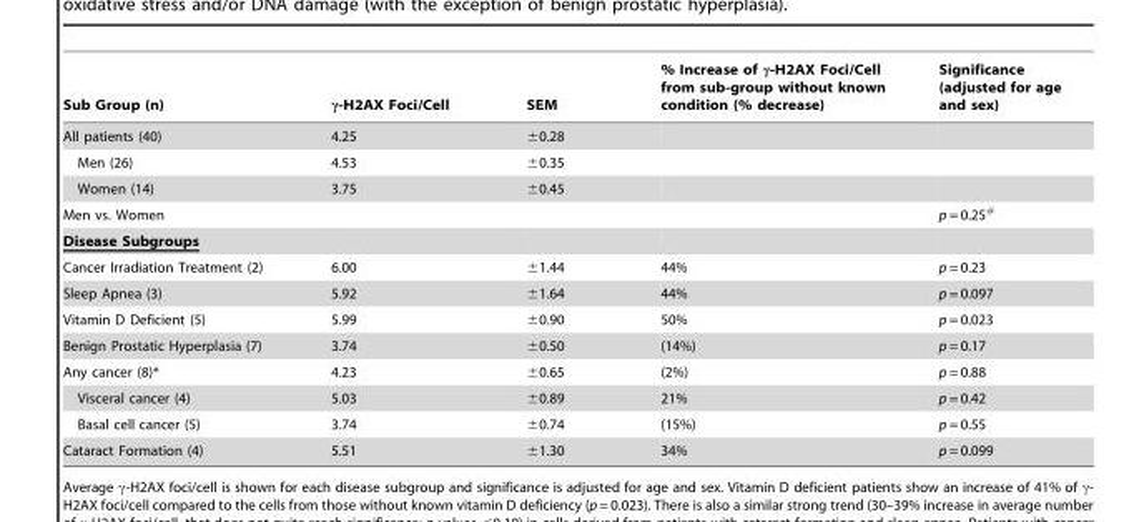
<table><thead><tr><td>Sub Group (n)</td><td>γ-H2AX Foci/Cell</td><td>SEM</td><td>% Increase of γ-H2AX Foci/Cell from sub-group without known condition (% decrease)</td><td>Significance (adjusted for age and sex)</td></tr></thead><tbody><tr><td>All patients (40)</td><td>4.25</td><td>±0.28</td><td></td><td></td></tr><tr><td>Men (26)</td><td>4.53</td><td>±0.35</td><td></td><td></td></tr><tr><td>Women (14)</td><td>3.75</td><td>±0.45</td><td></td><td></td></tr><tr><td>Men vs. Women</td><td></td><td></td><td></td><td>p = 0.25#</td></tr><tr><td colspan="5">Disease Subgroups</td></tr><tr><td>Cancer Irradiation Treatment (2)</td><td>6.00</td><td>±1.44</td><td>44%</td><td>p = 0.23</td></tr><tr><td>Sleep Apnea (3)</td><td>5.92</td><td>±1.64</td><td>44%</td><td>p = 0.097</td></tr><tr><td>Vitamin D Deficient (5)</td><td>5.99</td><td>±0.90</td><td>50%</td><td>p = 0.023</td></tr><tr><td>Benign Prostatic Hyperplasia (7)</td><td>3.74</td><td>±0.50</td><td>(14%)</td><td>p = 0.17</td></tr><tr><td>Any cancer (8)*</td><td>4.23</td><td>±0.65</td><td>(2%)</td><td>p = 0.88</td></tr><tr><td>Visceral cancer (4)</td><td>5.03</td><td>±0.89</td><td>21%</td><td>p = 0.42</td></tr><tr><td>Basal cell cancer (5)</td><td>3.74</td><td>±0.74</td><td>(15%)</td><td>p = 0.55</td></tr><tr><td>Cataract Formation (4)</td><td>5.51</td><td>±1.30</td><td>34%</td><td>p = 0.099</td></tr></tbody></table>